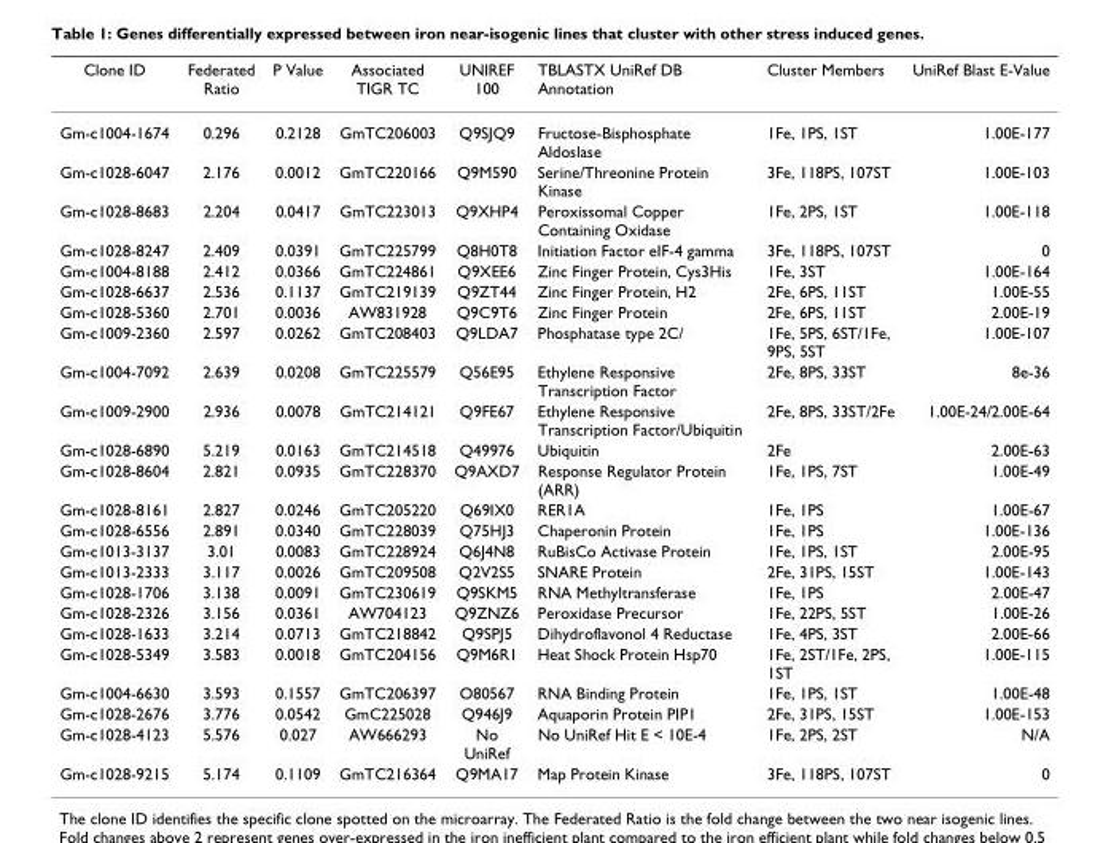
<table><thead><tr><td>Clone ID</td><td>Federated Ratio</td><td>P Value</td><td>Associated TIGR TC</td><td>UNIREF 100</td><td>TBLASTX UniRef DB Annotation</td><td>Cluster Members</td><td>UniRef Blast E-Value</td></tr></thead><tbody><tr><td>Gm-c1004-1674</td><td>0.296</td><td>0.2128</td><td>GmTC206003</td><td>Q9SJQ9</td><td>Fructose-Bisphosphate Aldoslase</td><td>1Fe, 1PS, 1ST</td><td>1.00E-177</td></tr><tr><td>Gm-c1028-6047</td><td>2.176</td><td>0.0012</td><td>GmTC220166</td><td>Q9M590</td><td>Serine/Threonine Protein Kinase</td><td>3Fe, 118PS, 107ST</td><td>1.00E-103</td></tr><tr><td>Gm-c1028-8683</td><td>2.204</td><td>0.0417</td><td>GmTC223013</td><td>Q9XHP4</td><td>Peroxissomal Copper Containing Oxidase</td><td>1Fe, 2PS, 1ST</td><td>1.00E-118</td></tr><tr><td>Gm-c1028-8247</td><td>2.409</td><td>0.0391</td><td>GmTC225799</td><td>Q8H0T8</td><td>Initiation Factor eIF-4 gamma</td><td>3Fe, 118PS, 107ST</td><td>0</td></tr><tr><td>Gm-c1004-8188</td><td>2.412</td><td>0.0366</td><td>GmTC224861</td><td>Q9XEE6</td><td>Zinc Finger Protein, Cys3His</td><td>1Fe, 3ST</td><td>1.00E-164</td></tr><tr><td>Gm-c1028-6637</td><td>2.536</td><td>0.1137</td><td>GmTC219139</td><td>Q9ZT44</td><td>Zinc Finger Protein, H2</td><td>2Fe, 6PS, 11ST</td><td>1.00E-55</td></tr><tr><td>Gm-c1028-5360</td><td>2.701</td><td>0.0036</td><td>AW831928</td><td>Q9C9T6</td><td>Zinc Finger Protein</td><td>2Fe, 6PS, 11ST</td><td>2.00E-19</td></tr><tr><td>Gm-c1009-2360</td><td>2.597</td><td>0.0262</td><td>GmTC208403</td><td>Q9LDA7</td><td>Phosphatase type 2C/</td><td>1Fe, 5PS, 6ST/1Fe, 9PS, 5ST</td><td>1.00E-107</td></tr><tr><td>Gm-c1004-7092</td><td>2.639</td><td>0.0208</td><td>GmTC225579</td><td>Q56E95</td><td>Ethylene Responsive Transcription Factor</td><td>2Fe, 8PS, 33ST</td><td>8e-36</td></tr><tr><td>Gm-c1009-2900</td><td>2.936</td><td>0.0078</td><td>GmTC214121</td><td>Q9FE67</td><td>Ethylene Responsive Transcription Factor/Ubiquitin</td><td>2Fe, 8PS, 33ST/2Fe</td><td>1.00E-24/2.00E-64</td></tr><tr><td>Gm-c1028-6890</td><td>5.219</td><td>0.0163</td><td>GmTC214518</td><td>Q49976</td><td>Ubiquitin</td><td>2Fe</td><td>2.00E-63</td></tr><tr><td>Gm-c1028-8604</td><td>2.821</td><td>0.0935</td><td>GmTC228370</td><td>Q9AXD7</td><td>Response Regulator Protein (ARR)</td><td>1Fe, 1PS, 7ST</td><td>1.00E-49</td></tr><tr><td>Gm-c1028-8161</td><td>2.827</td><td>0.0246</td><td>GmTC205220</td><td>Q69IX0</td><td>RER1A</td><td>1Fe, 1PS</td><td>1.00E-67</td></tr><tr><td>Gm-c1028-6556</td><td>2.891</td><td>0.0340</td><td>GmTC228039</td><td>Q75HJ3</td><td>Chaperonin Protein</td><td>1Fe, 1PS</td><td>1.00E-136</td></tr><tr><td>Gm-c1013-3137</td><td>3.01</td><td>0.0083</td><td>GmTC228924</td><td>Q6J4N8</td><td>RuBisCo Activase Protein</td><td>1Fe, 1PS, 1ST</td><td>2.00E-95</td></tr><tr><td>Gm-c1013-2333</td><td>3.117</td><td>0.0026</td><td>GmTC209508</td><td>Q2V2S5</td><td>SNARE Protein</td><td>2Fe, 31PS, 15ST</td><td>1.00E-143</td></tr><tr><td>Gm-c1028-1706</td><td>3.138</td><td>0.0091</td><td>GmTC230619</td><td>Q9SKM5</td><td>RNA Methyltransferase</td><td>1Fe, 1PS</td><td>2.00E-47</td></tr><tr><td>Gm-c1028-2326</td><td>3.156</td><td>0.0361</td><td>AW704123</td><td>Q9ZNZ6</td><td>Peroxidase Precursor</td><td>1Fe, 22PS, 5ST</td><td>1.00E-26</td></tr><tr><td>Gm-c1028-1633</td><td>3.214</td><td>0.0713</td><td>GmTC218842</td><td>Q9SPJ5</td><td>Dihydroflavonol 4 Reductase</td><td>1Fe, 4PS, 3ST</td><td>2.00E-66</td></tr><tr><td>Gm-c1028-5349</td><td>3.583</td><td>0.0018</td><td>GmTC204156</td><td>Q9M6R1</td><td>Heat Shock Protein Hsp70</td><td>1Fe, 2ST/1Fe, 2PS, 1ST</td><td>1.00E-115</td></tr><tr><td>Gm-c1004-6630</td><td>3.593</td><td>0.1557</td><td>GmTC206397</td><td>O80567</td><td>RNA Binding Protein</td><td>1Fe, 1PS, 1ST</td><td>1.00E-48</td></tr><tr><td>Gm-c1028-2676</td><td>3.776</td><td>0.0542</td><td>GmC225028</td><td>Q946J9</td><td>Aquaporin Protein PIP1</td><td>2Fe, 31PS, 15ST</td><td>1.00E-153</td></tr><tr><td>Gm-c1028-4123</td><td>5.576</td><td>0.027</td><td>AW666293</td><td>No UniRef</td><td>No UniRef Hit E &lt; 10E-4</td><td>1Fe, 2PS, 2ST</td><td>N/A</td></tr><tr><td>Gm-c1028-9215</td><td>5.174</td><td>0.1109</td><td>GmTC216364</td><td>Q9MA17</td><td>Map Protein Kinase</td><td>3Fe, 118PS, 107ST</td><td>0</td></tr></tbody></table>